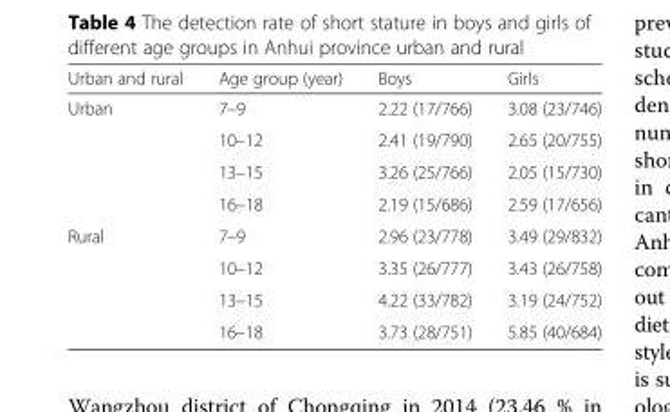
<table><thead><tr><td>Urban and rural</td><td>Age group (year)</td><td>Boys</td><td>Girls</td></tr></thead><tbody><tr><td rowspan="4">Urban</td><td>7–9</td><td>2.22 (17/766)</td><td>3.08 (23/746)</td></tr><tr><td>10–12</td><td>2.41 (19/790)</td><td>2.65 (20/755)</td></tr><tr><td>13–15</td><td>3.26 (25/766)</td><td>2.05 (15/730)</td></tr><tr><td>16–18</td><td>2.19 (15/686)</td><td>2.59 (17/656)</td></tr><tr><td rowspan="4">Rural</td><td>7–9</td><td>2.96 (23/778)</td><td>3.49 (29/832)</td></tr><tr><td>10–12</td><td>3.35 (26/777)</td><td>3.43 (26/758)</td></tr><tr><td>13–15</td><td>4.22 (33/782)</td><td>3.19 (24/752)</td></tr><tr><td>16–18</td><td>3.73 (28/751)</td><td>5.85 (40/684)</td></tr></tbody></table>